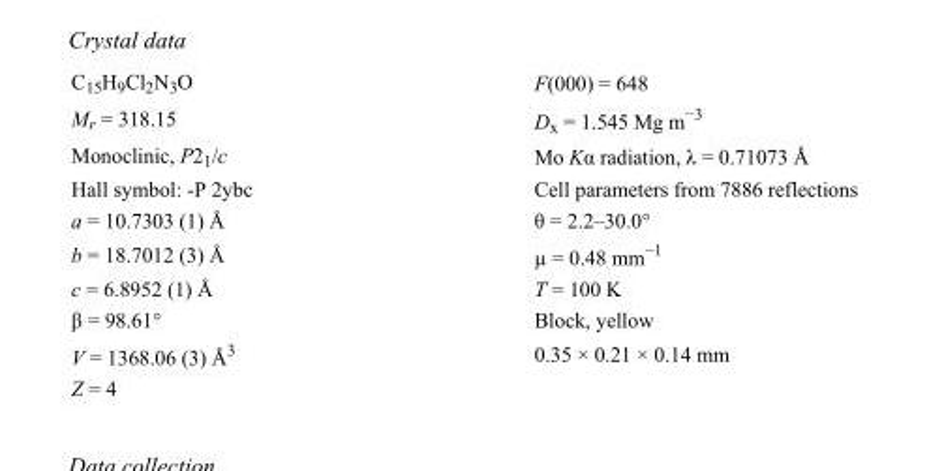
<table><tbody><tr><td>C<sub>15</sub>H<sub>9</sub>Cl<sub>2</sub>N<sub>3</sub>O</td><td>F(000) = 648</td></tr><tr><td>M<sub>r</sub> = 318.15</td><td>D<sub>x</sub> = 1.545 Mg m<sup>−3</sup></td></tr><tr><td>Monoclinic, P2<sub>1</sub>/c</td><td>Mo Kα radiation, λ = 0.71073 Å</td></tr><tr><td>Hall symbol: -P 2ybc</td><td>Cell parameters from 7886 reflections</td></tr><tr><td>a = 10.7303 (1) Å</td><td>θ = 2.2–30.0°</td></tr><tr><td>b = 18.7012 (3) Å</td><td>µ = 0.48 mm<sup>−1</sup></td></tr><tr><td>c = 6.8952 (1) Å</td><td>T = 100 K</td></tr><tr><td>β = 98.61°</td><td>Block, yellow</td></tr><tr><td>V = 1368.06 (3) Å<sup>3</sup></td><td>0.35 × 0.21 × 0.14 mm</td></tr><tr><td>Z = 4</td><td></td></tr></tbody></table>